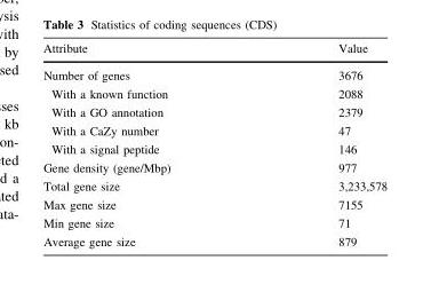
<table><thead><tr><td>Attribute</td><td>Value</td></tr></thead><tbody><tr><td>Number of genes</td><td>3676</td></tr><tr><td>With a known function</td><td>2088</td></tr><tr><td>With a GO annotation</td><td>2379</td></tr><tr><td>With a CaZy number</td><td>47</td></tr><tr><td>With a signal peptide</td><td>146</td></tr><tr><td>Gene density (gene/Mbp)</td><td>977</td></tr><tr><td>Total gene size</td><td>3,233,578</td></tr><tr><td>Max gene size</td><td>7155</td></tr><tr><td>Min gene size</td><td>71</td></tr><tr><td>Average gene size</td><td>879</td></tr></tbody></table>